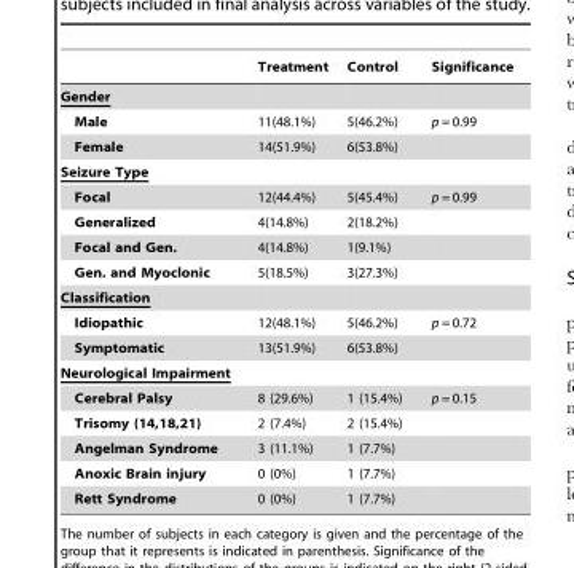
<table><thead><tr><td></td><td>Treatment</td><td>Control</td><td>Significance</td></tr></thead><tbody><tr><td colspan="4">Gender</td></tr><tr><td>Male</td><td>11(48.1%)</td><td>5(46.2%)</td><td>p = 0.99</td></tr><tr><td>Female</td><td>14(51.9%)</td><td>6(53.8%)</td><td></td></tr><tr><td colspan="4">Seizure Type</td></tr><tr><td>Focal</td><td>12(44.4%)</td><td>5(45.4%)</td><td>p = 0.99</td></tr><tr><td>Generalized</td><td>4(14.8%)</td><td>2(18.2%)</td><td></td></tr><tr><td>Focal and Gen.</td><td>4(14.8%)</td><td>1(9.1%)</td><td></td></tr><tr><td>Gen. and Myoclonic</td><td>5(18.5%)</td><td>3(27.3%)</td><td></td></tr><tr><td colspan="4">Classification</td></tr><tr><td>Idiopathic</td><td>12(48.1%)</td><td>5(46.2%)</td><td>p = 0.72</td></tr><tr><td>Symptomatic</td><td>13(51.9%)</td><td>6(53.8%)</td><td></td></tr><tr><td colspan="4">Neurological Impairment</td></tr><tr><td>Cerebral Palsy</td><td>8 (29.6%)</td><td>1 (15.4%)</td><td>p = 0.15</td></tr><tr><td>Trisomy (14,18,21)</td><td>2 (7.4%)</td><td>2 (15.4%)</td><td></td></tr><tr><td>Angelman Syndrome</td><td>3 (11.1%)</td><td>1 (7.7%)</td><td></td></tr><tr><td>Anoxic Brain injury</td><td>0 (0%)</td><td>1 (7.7%)</td><td></td></tr><tr><td>Rett Syndrome</td><td>0 (0%)</td><td>1 (7.7%)</td><td></td></tr></tbody></table>